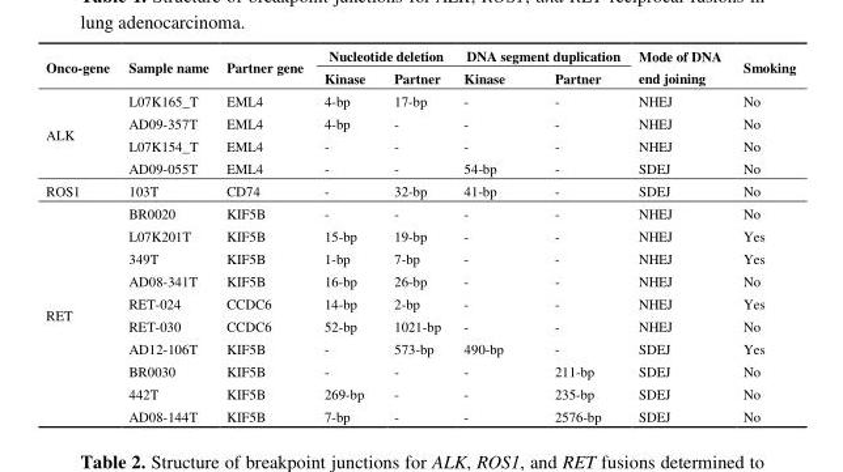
<table><thead><tr><td rowspan="2">Onco-gene</td><td rowspan="2">Sample name</td><td rowspan="2">Partner gene</td><td colspan="2">Nucleotide deletion</td><td colspan="2">DNA segment duplication</td><td rowspan="2">Mode of DNA end joining</td><td rowspan="2">Smoking</td></tr><tr><td>Kinase</td><td>Partner</td><td>Kinase</td><td>Partner</td></tr></thead><tbody><tr><td rowspan="4">ALK</td><td>L07K165_T</td><td>EML4</td><td>4-bp</td><td>17-bp</td><td>-</td><td>-</td><td>NHEJ</td><td>No</td></tr><tr><td>AD09-357T</td><td>EML4</td><td>4-bp</td><td>-</td><td>-</td><td>-</td><td>NHEJ</td><td>No</td></tr><tr><td>L07K154_T</td><td>EML4</td><td>-</td><td>-</td><td>-</td><td>-</td><td>NHEJ</td><td>No</td></tr><tr><td>AD09-055T</td><td>EML4</td><td>-</td><td>-</td><td>54-bp</td><td>-</td><td>SDEJ</td><td>No</td></tr><tr><td>ROS1</td><td>103T</td><td>CD74</td><td>-</td><td>32-bp</td><td>41-bp</td><td>-</td><td>SDEJ</td><td>No</td></tr><tr><td rowspan="10">RET</td><td>BR0020</td><td>KIF5B</td><td>-</td><td>-</td><td>-</td><td>-</td><td>NHEJ</td><td>No</td></tr><tr><td>L07K201T</td><td>KIF5B</td><td>15-bp</td><td>19-bp</td><td>-</td><td>-</td><td>NHEJ</td><td>Yes</td></tr><tr><td>349T</td><td>KIF5B</td><td>1-bp</td><td>7-bp</td><td>-</td><td>-</td><td>NHEJ</td><td>Yes</td></tr><tr><td>AD08-341T</td><td>KIF5B</td><td>16-bp</td><td>26-bp</td><td>-</td><td>-</td><td>NHEJ</td><td>No</td></tr><tr><td>RET-024</td><td>CCDC6</td><td>14-bp</td><td>2-bp</td><td>-</td><td>-</td><td>NHEJ</td><td>Yes</td></tr><tr><td>RET-030</td><td>CCDC6</td><td>52-bp</td><td>1021-bp</td><td>-</td><td>-</td><td>NHEJ</td><td>No</td></tr><tr><td>AD12-106T</td><td>KIF5B</td><td>-</td><td>573-bp</td><td>490-bp</td><td>-</td><td>SDEJ</td><td>Yes</td></tr><tr><td>BR0030</td><td>KIF5B</td><td>-</td><td>-</td><td>-</td><td>211-bp</td><td>SDEJ</td><td>No</td></tr><tr><td>442T</td><td>KIF5B</td><td>269-bp</td><td>-</td><td>-</td><td>235-bp</td><td>SDEJ</td><td>No</td></tr><tr><td>AD08-144T</td><td>KIF5B</td><td>7-bp</td><td>-</td><td>-</td><td>2576-bp</td><td>SDEJ</td><td>No</td></tr></tbody></table>